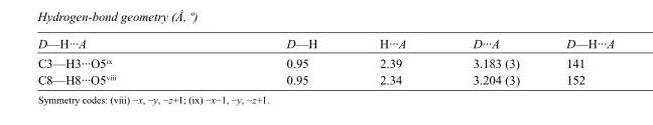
<table><tbody><tr><td>D—H···A</td><td>D—H</td><td>H···A</td><td>D···A</td><td>D—H···A</td></tr><tr><td>C3—H3···O5<sup>ix</sup></td><td>0.95</td><td>2.39</td><td>3.183 (3)</td><td>141</td></tr><tr><td>C8—H8···O5<sup>viii</sup></td><td>0.95</td><td>2.34</td><td>3.204 (3)</td><td>152</td></tr></tbody></table>